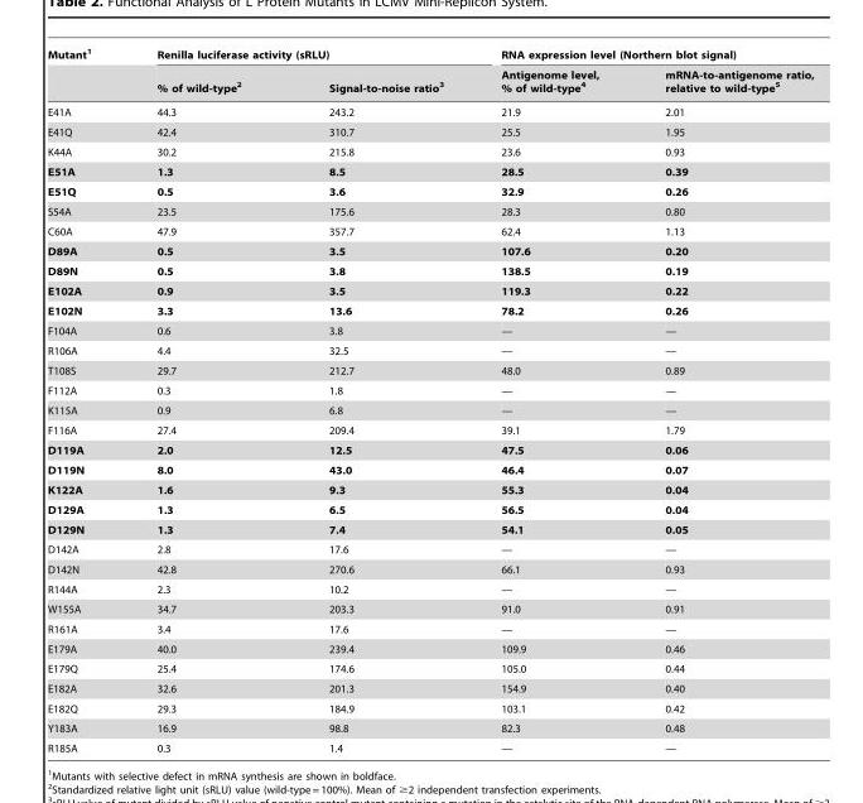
<table><thead><tr><td rowspan="2">Mutant<sup>1</sup></td><td colspan="2">Renilla luciferase activity (sRLU)</td><td colspan="2">RNA expression level (Northern blot signal)</td></tr><tr><td>% of wild-type<sup>2</sup></td><td>Signal-to-noise ratio<sup>3</sup></td><td>Antigenome level, % of wild-type<sup>4</sup></td><td>mRNA-to-antigenome ratio, relative to wild-type<sup>5</sup></td></tr></thead><tbody><tr><td>E41A</td><td>44.3</td><td>243.2</td><td>21.9</td><td>2.01</td></tr><tr><td>E41Q</td><td>42.4</td><td>310.7</td><td>25.5</td><td>1.95</td></tr><tr><td>K44A</td><td>30.2</td><td>215.8</td><td>23.6</td><td>0.93</td></tr><tr><td>E51A</td><td>1.3</td><td>8.5</td><td>28.5</td><td>0.39</td></tr><tr><td>E51Q</td><td>0.5</td><td>3.6</td><td>32.9</td><td>0.26</td></tr><tr><td>S54A</td><td>23.5</td><td>175.6</td><td>28.3</td><td>0.80</td></tr><tr><td>C60A</td><td>47.9</td><td>357.7</td><td>62.4</td><td>1.13</td></tr><tr><td>D89A</td><td>0.5</td><td>3.5</td><td>107.6</td><td>0.20</td></tr><tr><td>D89N</td><td>0.5</td><td>3.8</td><td>138.5</td><td>0.19</td></tr><tr><td>E102A</td><td>0.9</td><td>3.5</td><td>119.3</td><td>0.22</td></tr><tr><td>E102N</td><td>3.3</td><td>13.6</td><td>78.2</td><td>0.26</td></tr><tr><td>F104A</td><td>0.6</td><td>3.8</td><td>—</td><td>—</td></tr><tr><td>R106A</td><td>4.4</td><td>32.5</td><td>—</td><td>—</td></tr><tr><td>T108S</td><td>29.7</td><td>212.7</td><td>48.0</td><td>0.89</td></tr><tr><td>F112A</td><td>0.3</td><td>1.8</td><td>—</td><td>—</td></tr><tr><td>K115A</td><td>0.9</td><td>6.8</td><td>—</td><td>—</td></tr><tr><td>F116A</td><td>27.4</td><td>209.4</td><td>39.1</td><td>1.79</td></tr><tr><td>D119A</td><td>2.0</td><td>12.5</td><td>47.5</td><td>0.06</td></tr><tr><td>D119N</td><td>8.0</td><td>43.0</td><td>46.4</td><td>0.07</td></tr><tr><td>K122A</td><td>1.6</td><td>9.3</td><td>55.3</td><td>0.04</td></tr><tr><td>D129A</td><td>1.3</td><td>6.5</td><td>56.5</td><td>0.04</td></tr><tr><td>D129N</td><td>1.3</td><td>7.4</td><td>54.1</td><td>0.05</td></tr><tr><td>D142A</td><td>2.8</td><td>17.6</td><td>—</td><td>—</td></tr><tr><td>D142N</td><td>42.8</td><td>270.6</td><td>66.1</td><td>0.93</td></tr><tr><td>R144A</td><td>2.3</td><td>10.2</td><td>—</td><td>—</td></tr><tr><td>W155A</td><td>34.7</td><td>203.3</td><td>91.0</td><td>0.91</td></tr><tr><td>R161A</td><td>3.4</td><td>17.6</td><td>—</td><td>—</td></tr><tr><td>E179A</td><td>40.0</td><td>239.4</td><td>109.9</td><td>0.46</td></tr><tr><td>E179Q</td><td>25.4</td><td>174.6</td><td>105.0</td><td>0.44</td></tr><tr><td>E182A</td><td>32.6</td><td>201.3</td><td>154.9</td><td>0.40</td></tr><tr><td>E182Q</td><td>29.3</td><td>184.9</td><td>103.1</td><td>0.42</td></tr><tr><td>Y183A</td><td>16.9</td><td>98.8</td><td>82.3</td><td>0.48</td></tr><tr><td>R185A</td><td>0.3</td><td>1.4</td><td>—</td><td>—</td></tr></tbody></table>